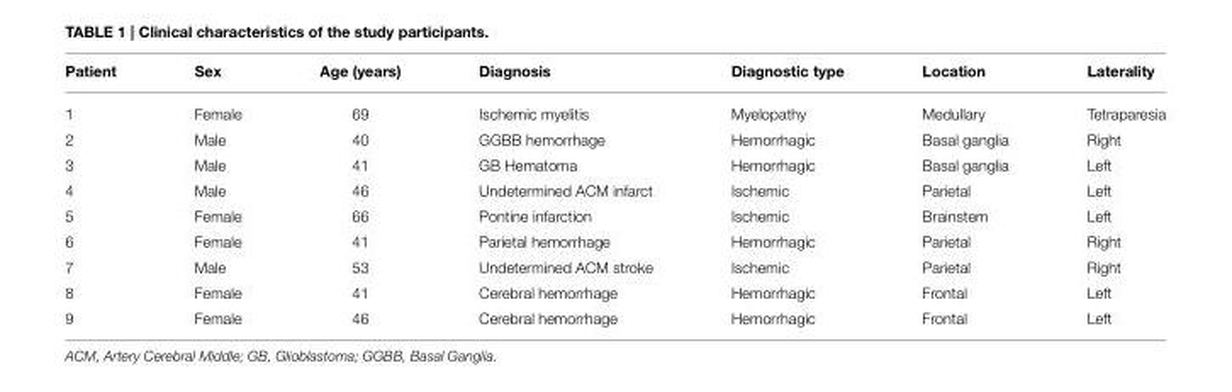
<table><thead><tr><td>Patient</td><td>Sex</td><td>Age (years)</td><td>Diagnosis</td><td>Diagnostic type</td><td>Location</td><td>Laterality</td></tr></thead><tbody><tr><td>1</td><td>Female</td><td>69</td><td>Ischemic myelitis</td><td>Myelopathy</td><td>Medullary</td><td>Tetraparesia</td></tr><tr><td>2</td><td>Male</td><td>40</td><td>GGBB hemorrhage</td><td>Hemorrhagic</td><td>Basal ganglia</td><td>Right</td></tr><tr><td>3</td><td>Male</td><td>41</td><td>GB Hematoma</td><td>Hemorrhagic</td><td>Basal ganglia</td><td>Left</td></tr><tr><td>4</td><td>Male</td><td>46</td><td>Undetermined ACM infarct</td><td>Ischemic</td><td>Parietal</td><td>Left</td></tr><tr><td>5</td><td>Female</td><td>66</td><td>Pontine infarction</td><td>Ischemic</td><td>Brainstem</td><td>Left</td></tr><tr><td>6</td><td>Female</td><td>41</td><td>Parietal hemorrhage</td><td>Hemorrhagic</td><td>Parietal</td><td>Right</td></tr><tr><td>7</td><td>Male</td><td>53</td><td>Undetermined ACM stroke</td><td>Ischemic</td><td>Parietal</td><td>Right</td></tr><tr><td>8</td><td>Female</td><td>41</td><td>Cerebral hemorrhage</td><td>Hemorrhagic</td><td>Frontal</td><td>Left</td></tr><tr><td>9</td><td>Female</td><td>46</td><td>Cerebral hemorrhage</td><td>Hemorrhagic</td><td>Frontal</td><td>Left</td></tr></tbody></table>